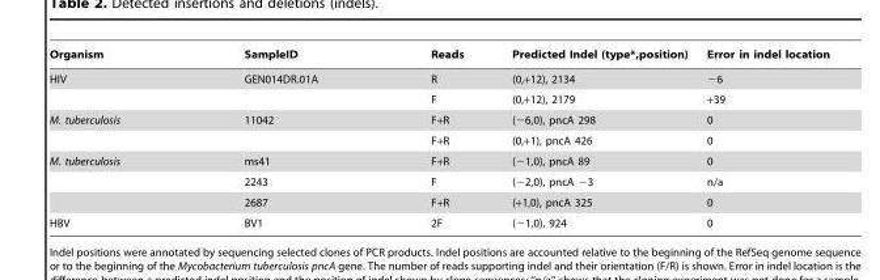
<table><thead><tr><td>Organism</td><td>SampleID</td><td>Reads</td><td>Predicted Indel (type*,position)</td><td>Error in indel location</td></tr></thead><tbody><tr><td rowspan="2">HIV</td><td>GEN014DR.01A</td><td>R</td><td>(0,+12), 2134</td><td>−6</td></tr><tr><td></td><td>F</td><td>(0,+12), 2179</td><td>+39</td></tr><tr><td rowspan="2">M. tuberculosis</td><td>11042</td><td>F+R</td><td>(−6,0), pncA 298</td><td>0</td></tr><tr><td></td><td>F+R</td><td>(0,+1), pncA 426</td><td>0</td></tr><tr><td rowspan="3">M. tuberculosis</td><td>ms41</td><td>F+R</td><td>(−1,0), pncA 89</td><td>0</td></tr><tr><td>2243</td><td>F</td><td>(−2,0), pncA −3</td><td>n/a</td></tr><tr><td>2687</td><td>F+R</td><td>(+1,0), pncA 325</td><td>0</td></tr><tr><td>HBV</td><td>BV1</td><td>2F</td><td>(−1,0), 924</td><td>0</td></tr></tbody></table>